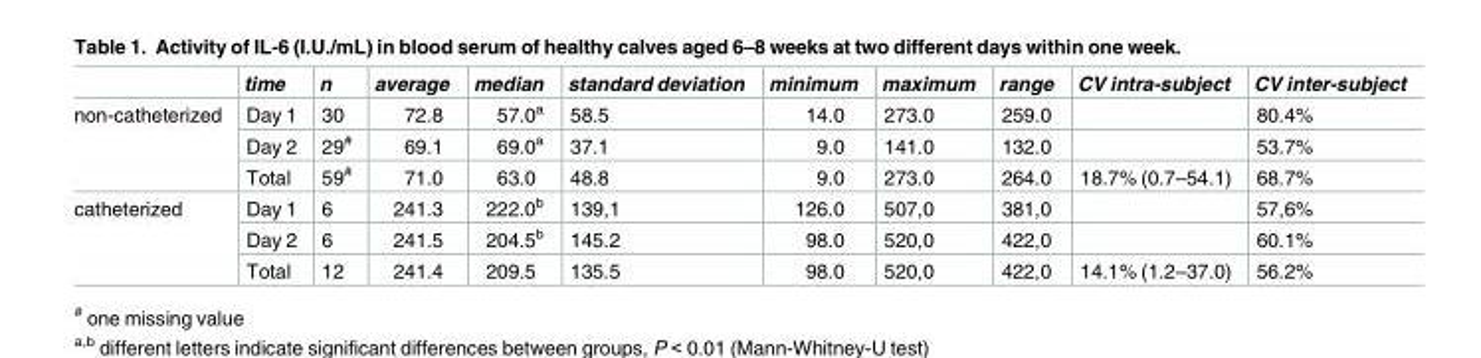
<table><thead><tr><td></td><td>time</td><td>n</td><td>average</td><td>median</td><td>standard deviation</td><td>minimum</td><td>maximum</td><td>range</td><td>CV intra-subject</td><td>CV inter-subject</td></tr></thead><tbody><tr><td rowspan="3">non-catheterized</td><td>Day 1</td><td>30</td><td>72.8</td><td>57.0<sup>a</sup></td><td>58.5</td><td>14.0</td><td>273.0</td><td>259.0</td><td></td><td>80.4%</td></tr><tr><td>Day 2</td><td>29<sup>#</sup></td><td>69.1</td><td>69.0<sup>a</sup></td><td>37.1</td><td>9.0</td><td>141.0</td><td>132.0</td><td></td><td>53.7%</td></tr><tr><td>Total</td><td>59<sup>#</sup></td><td>71.0</td><td>63.0</td><td>48.8</td><td>9.0</td><td>273.0</td><td>264.0</td><td>18.7% (0.7–54.1)</td><td>68.7%</td></tr><tr><td rowspan="3">catheterized</td><td>Day 1</td><td>6</td><td>241.3</td><td>222.0<sup>b</sup></td><td>139,1</td><td>126.0</td><td>507,0</td><td>381,0</td><td></td><td>57,6%</td></tr><tr><td>Day 2</td><td>6</td><td>241.5</td><td>204.5<sup>b</sup></td><td>145.2</td><td>98.0</td><td>520,0</td><td>422,0</td><td></td><td>60.1%</td></tr><tr><td>Total</td><td>12</td><td>241.4</td><td>209.5</td><td>135.5</td><td>98.0</td><td>520,0</td><td>422,0</td><td>14.1% (1.2–37.0)</td><td>56.2%</td></tr></tbody></table>